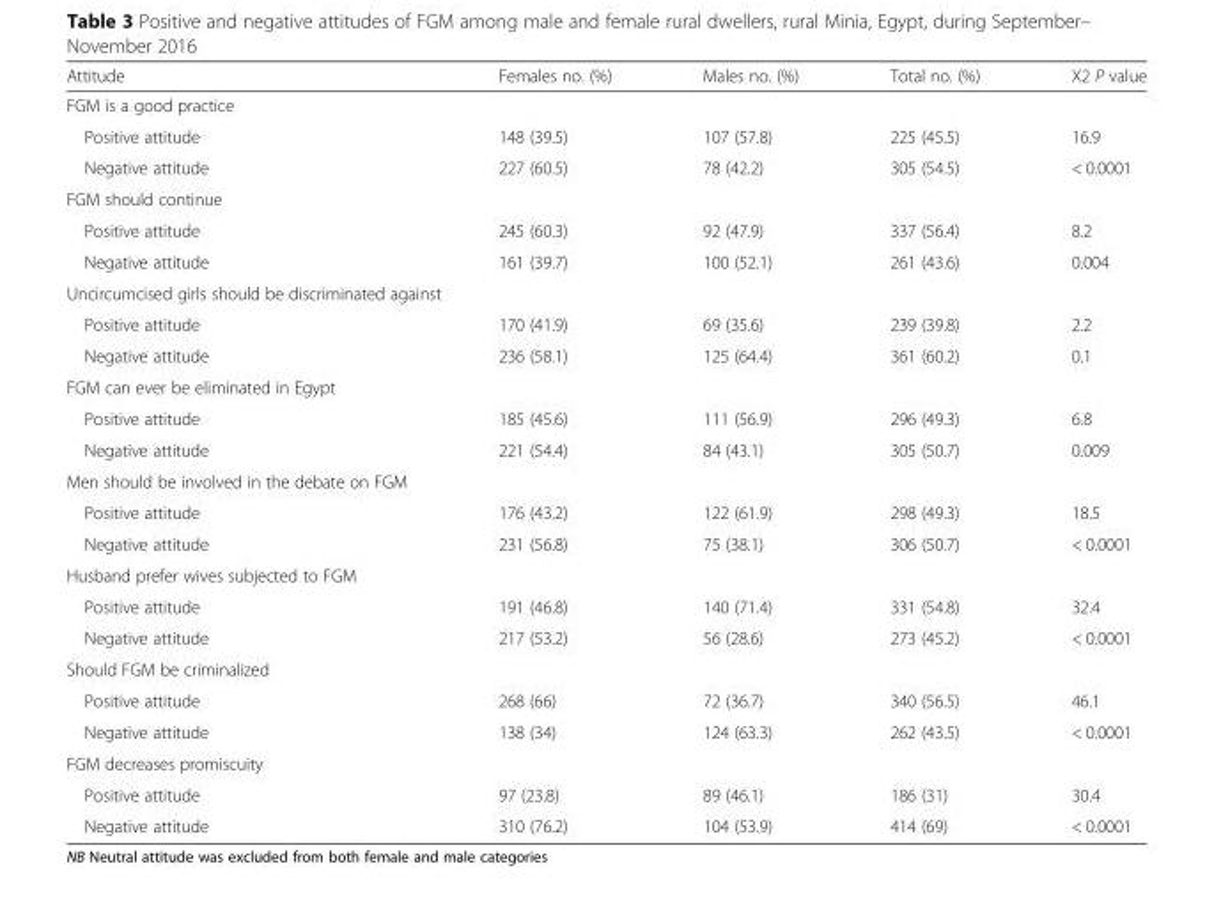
<table><thead><tr><td>Attitude</td><td>Females no. (%)</td><td>Males no. (%)</td><td>Total no. (%)</td><td>X2 P value</td></tr></thead><tbody><tr><td colspan="5">FGM is a good practice</td></tr><tr><td>Positive attitude</td><td>148 (39.5)</td><td>107 (57.8)</td><td>225 (45.5)</td><td>16.9</td></tr><tr><td>Negative attitude</td><td>227 (60.5)</td><td>78 (42.2)</td><td>305 (54.5)</td><td>&lt; 0.0001</td></tr><tr><td colspan="5">FGM should continue</td></tr><tr><td>Positive attitude</td><td>245 (60.3)</td><td>92 (47.9)</td><td>337 (56.4)</td><td>8.2</td></tr><tr><td>Negative attitude</td><td>161 (39.7)</td><td>100 (52.1)</td><td>261 (43.6)</td><td>0.004</td></tr><tr><td colspan="5">Uncircumcised girls should be discriminated against</td></tr><tr><td>Positive attitude</td><td>170 (41.9)</td><td>69 (35.6)</td><td>239 (39.8)</td><td>2.2</td></tr><tr><td>Negative attitude</td><td>236 (58.1)</td><td>125 (64.4)</td><td>361 (60.2)</td><td>0.1</td></tr><tr><td colspan="5">FGM can ever be eliminated in Egypt</td></tr><tr><td>Positive attitude</td><td>185 (45.6)</td><td>111 (56.9)</td><td>296 (49.3)</td><td>6.8</td></tr><tr><td>Negative attitude</td><td>221 (54.4)</td><td>84 (43.1)</td><td>305 (50.7)</td><td>0.009</td></tr><tr><td colspan="5">Men should be involved in the debate on FGM</td></tr><tr><td>Positive attitude</td><td>176 (43.2)</td><td>122 (61.9)</td><td>298 (49.3)</td><td>18.5</td></tr><tr><td>Negative attitude</td><td>231 (56.8)</td><td>75 (38.1)</td><td>306 (50.7)</td><td>&lt; 0.0001</td></tr><tr><td colspan="5">Husband prefer wives subjected to FGM</td></tr><tr><td>Positive attitude</td><td>191 (46.8)</td><td>140 (71.4)</td><td>331 (54.8)</td><td>32.4</td></tr><tr><td>Negative attitude</td><td>217 (53.2)</td><td>56 (28.6)</td><td>273 (45.2)</td><td>&lt; 0.0001</td></tr><tr><td colspan="5">Should FGM be criminalized</td></tr><tr><td>Positive attitude</td><td>268 (66)</td><td>72 (36.7)</td><td>340 (56.5)</td><td>46.1</td></tr><tr><td>Negative attitude</td><td>138 (34)</td><td>124 (63.3)</td><td>262 (43.5)</td><td>&lt; 0.0001</td></tr><tr><td colspan="5">FGM decreases promiscuity</td></tr><tr><td>Positive attitude</td><td>97 (23.8)</td><td>89 (46.1)</td><td>186 (31)</td><td>30.4</td></tr><tr><td>Negative attitude</td><td>310 (76.2)</td><td>104 (53.9)</td><td>414 (69)</td><td>&lt; 0.0001</td></tr></tbody></table>